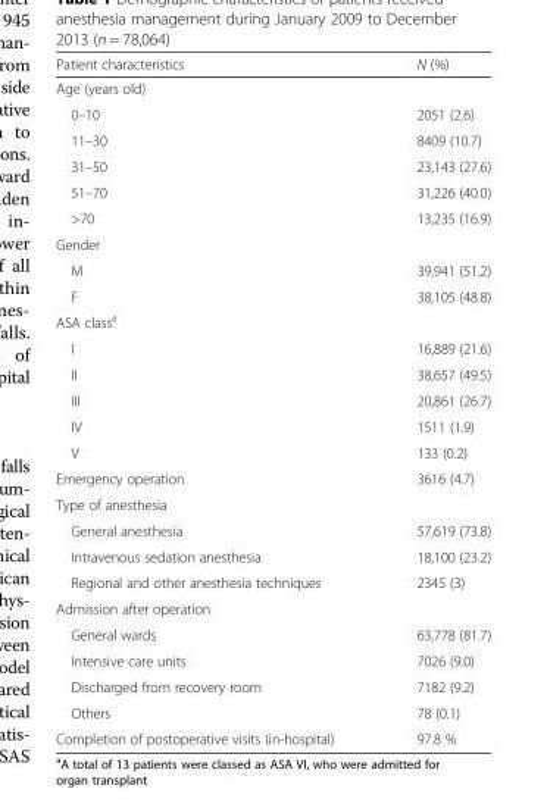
<table><thead><tr><td>Patient characteristics</td><td>N (%)</td></tr></thead><tbody><tr><td colspan="2">Age (years old)</td></tr><tr><td>0–10</td><td>2051 (2.6)</td></tr><tr><td>11–30</td><td>8409 (10.7)</td></tr><tr><td>31–50</td><td>23,143 (27.6)</td></tr><tr><td>51–70</td><td>31,226 (40.0)</td></tr><tr><td>&gt;70</td><td>13,235 (16.9)</td></tr><tr><td colspan="2">Gender</td></tr><tr><td>M</td><td>39,941 (51.2)</td></tr><tr><td>F</td><td>38,105 (48.8)</td></tr><tr><td colspan="2">ASA class<sup>a</sup></td></tr><tr><td>I</td><td>16,889 (21.6)</td></tr><tr><td>II</td><td>38,657 (49.5)</td></tr><tr><td>III</td><td>20,861 (26.7)</td></tr><tr><td>IV</td><td>1511 (1.9)</td></tr><tr><td>V</td><td>133 (0.2)</td></tr><tr><td>Emergency operation</td><td>3616 (4.7)</td></tr><tr><td colspan="2">Type of anesthesia</td></tr><tr><td>General anesthesia</td><td>57,619 (73.8)</td></tr><tr><td>Intravenous sedation anesthesia</td><td>18,100 (23.2)</td></tr><tr><td>Regional and other anesthesia techniques</td><td>2345 (3)</td></tr><tr><td colspan="2">Admission after operation</td></tr><tr><td>General wards</td><td>63,778 (81.7)</td></tr><tr><td>Intensive care units</td><td>7026 (9.0)</td></tr><tr><td>Discharged from recovery room</td><td>7182 (9.2)</td></tr><tr><td>Others</td><td>78 (0.1)</td></tr><tr><td>Completion of postoperative visits (in-hospital)</td><td>97.8 %</td></tr></tbody></table>